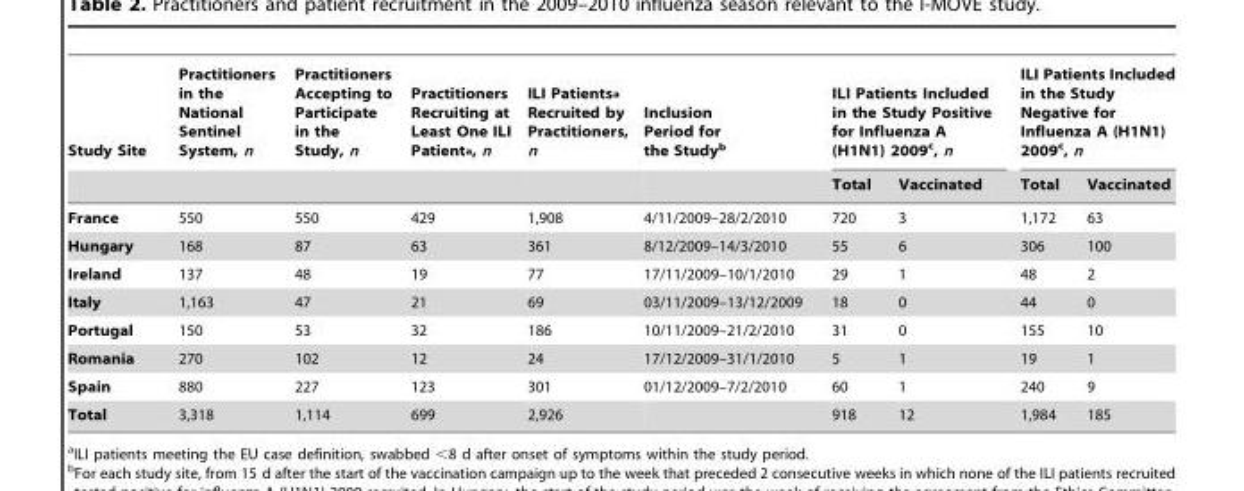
<table><thead><tr><td rowspan="2">Study Site</td><td rowspan="2">Practitioners in the National Sentinel System, n</td><td rowspan="2">Practitioners Accepting to Participate in the Study, n</td><td rowspan="2">Practitioners Recruiting at Least One ILI Patient<sup>a</sup>, n</td><td rowspan="2">ILI Patients<sup>a</sup> Recruited by Practitioners, n</td><td rowspan="2">Inclusion Period for the Study<sup>b</sup></td><td colspan="2">ILI Patients Included in the Study Positive for Influenza A (H1N1) 2009<sup>c</sup>, n</td><td colspan="2">ILI Patients Included in the Study Negative for Influenza A (H1N1) 2009<sup>c</sup>, n</td></tr><tr><td>Total</td><td>Vaccinated</td><td>Total</td><td>Vaccinated</td></tr></thead><tbody><tr><td>France</td><td>550</td><td>550</td><td>429</td><td>1,908</td><td>4/11/2009–28/2/2010</td><td>720</td><td>3</td><td>1,172</td><td>63</td></tr><tr><td>Hungary</td><td>168</td><td>87</td><td>63</td><td>361</td><td>8/12/2009–14/3/2010</td><td>55</td><td>6</td><td>306</td><td>100</td></tr><tr><td>Ireland</td><td>137</td><td>48</td><td>19</td><td>77</td><td>17/11/2009–10/1/2010</td><td>29</td><td>1</td><td>48</td><td>2</td></tr><tr><td>Italy</td><td>1,163</td><td>47</td><td>21</td><td>69</td><td>03/11/2009–13/12/2009</td><td>18</td><td>0</td><td>44</td><td>0</td></tr><tr><td>Portugal</td><td>150</td><td>53</td><td>32</td><td>186</td><td>10/11/2009–21/2/2010</td><td>31</td><td>0</td><td>155</td><td>10</td></tr><tr><td>Romania</td><td>270</td><td>102</td><td>12</td><td>24</td><td>17/12/2009–31/1/2010</td><td>5</td><td>1</td><td>19</td><td>1</td></tr><tr><td>Spain</td><td>880</td><td>227</td><td>123</td><td>301</td><td>01/12/2009–7/2/2010</td><td>60</td><td>1</td><td>240</td><td>9</td></tr><tr><td>Total</td><td>3,318</td><td>1,114</td><td>699</td><td>2,926</td><td></td><td>918</td><td>12</td><td>1,984</td><td>185</td></tr></tbody></table>